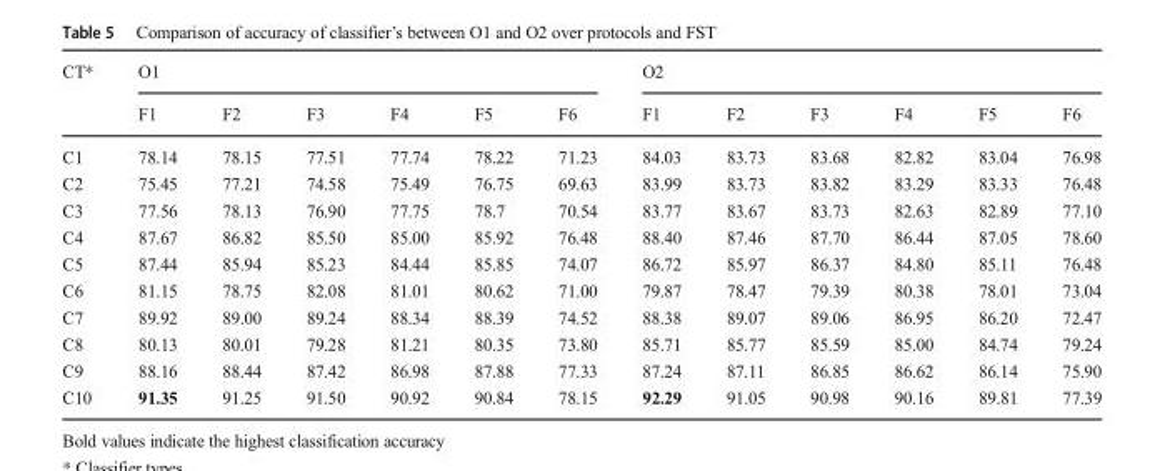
<table><thead><tr><td rowspan="2">CT*</td><td colspan="6">O1</td><td colspan="6">O2</td></tr><tr><td>F1</td><td>F2</td><td>F3</td><td>F4</td><td>F5</td><td>F6</td><td>F1</td><td>F2</td><td>F3</td><td>F4</td><td>F5</td><td>F6</td></tr></thead><tbody><tr><td>C1</td><td>78.14</td><td>78.15</td><td>77.51</td><td>77.74</td><td>78.22</td><td>71.23</td><td>84.03</td><td>83.73</td><td>83.68</td><td>82.82</td><td>83.04</td><td>76.98</td></tr><tr><td>C2</td><td>75.45</td><td>77.21</td><td>74.58</td><td>75.49</td><td>76.75</td><td>69.63</td><td>83.99</td><td>83.73</td><td>83.82</td><td>83.29</td><td>83.33</td><td>76.48</td></tr><tr><td>C3</td><td>77.56</td><td>78.13</td><td>76.90</td><td>77.75</td><td>78.7</td><td>70.54</td><td>83.77</td><td>83.67</td><td>83.73</td><td>82.63</td><td>82.89</td><td>77.10</td></tr><tr><td>C4</td><td>87.67</td><td>86.82</td><td>85.50</td><td>85.00</td><td>85.92</td><td>76.48</td><td>88.40</td><td>87.46</td><td>87.70</td><td>86.44</td><td>87.05</td><td>78.60</td></tr><tr><td>C5</td><td>87.44</td><td>85.94</td><td>85.23</td><td>84.44</td><td>85.85</td><td>74.07</td><td>86.72</td><td>85.97</td><td>86.37</td><td>84.80</td><td>85.11</td><td>76.48</td></tr><tr><td>C6</td><td>81.15</td><td>78.75</td><td>82.08</td><td>81.01</td><td>80.62</td><td>71.00</td><td>79.87</td><td>78.47</td><td>79.39</td><td>80.38</td><td>78.01</td><td>73.04</td></tr><tr><td>C7</td><td>89.92</td><td>89.00</td><td>89.24</td><td>88.34</td><td>88.39</td><td>74.52</td><td>88.38</td><td>89.07</td><td>89.06</td><td>86.95</td><td>86.20</td><td>72.47</td></tr><tr><td>C8</td><td>80.13</td><td>80.01</td><td>79.28</td><td>81.21</td><td>80.35</td><td>73.80</td><td>85.71</td><td>85.77</td><td>85.59</td><td>85.00</td><td>84.74</td><td>79.24</td></tr><tr><td>C9</td><td>88.16</td><td>88.44</td><td>87.42</td><td>86.98</td><td>87.88</td><td>77.33</td><td>87.24</td><td>87.11</td><td>86.85</td><td>86.62</td><td>86.14</td><td>75.90</td></tr><tr><td>C10</td><td>91.35</td><td>91.25</td><td>91.50</td><td>90.92</td><td>90.84</td><td>78.15</td><td>92.29</td><td>91.05</td><td>90.98</td><td>90.16</td><td>89.81</td><td>77.39</td></tr></tbody></table>